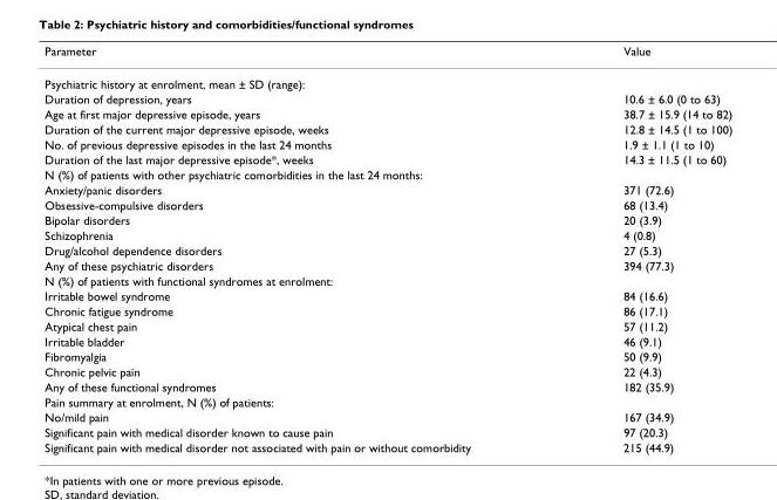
<table><thead><tr><td>Parameter</td><td>Value</td></tr></thead><tbody><tr><td colspan="2">Psychiatric history at enrolment, mean ± SD (range):</td></tr><tr><td>Duration of depression, years</td><td>10.6 ± 6.0 (0 to 63)</td></tr><tr><td>Age at first major depressive episode, years</td><td>38.7 ± 15.9 (14 to 82)</td></tr><tr><td>Duration of the current major depressive episode, weeks</td><td>12.8 ± 14.5 (1 to 100)</td></tr><tr><td>No. of previous depressive episodes in the last 24 months</td><td>1.9 ± 1.1 (1 to 10)</td></tr><tr><td>Duration of the last major depressive episode*, weeks</td><td>14.3 ± 11.5 (1 to 60)</td></tr><tr><td colspan="2">N (%) of patients with other psychiatric comorbidities in the last 24 months:</td></tr><tr><td>Anxiety/panic disorders</td><td>371 (72.6)</td></tr><tr><td>Obsessive-compulsive disorders</td><td>68 (13.4)</td></tr><tr><td>Bipolar disorders</td><td>20 (3.9)</td></tr><tr><td>Schizophrenia</td><td>4 (0.8)</td></tr><tr><td>Drug/alcohol dependence disorders</td><td>27 (5.3)</td></tr><tr><td>Any of these psychiatric disorders</td><td>394 (77.3)</td></tr><tr><td colspan="2">N (%) of patients with functional syndromes at enrolment:</td></tr><tr><td>Irritable bowel syndrome</td><td>84 (16.6)</td></tr><tr><td>Chronic fatigue syndrome</td><td>86 (17.1)</td></tr><tr><td>Atypical chest pain</td><td>57 (11.2)</td></tr><tr><td>Irritable bladder</td><td>46 (9.1)</td></tr><tr><td>Fibromyalgia</td><td>50 (9.9)</td></tr><tr><td>Chronic pelvic pain</td><td>22 (4.3)</td></tr><tr><td>Any of these functional syndromes</td><td>182 (35.9)</td></tr><tr><td colspan="2">Pain summary at enrolment, N (%) of patients:</td></tr><tr><td>No/mild pain</td><td>167 (34.9)</td></tr><tr><td>Significant pain with medical disorder known to cause pain</td><td>97 (20.3)</td></tr><tr><td>Significant pain with medical disorder not associated with pain or without comorbidity</td><td>215 (44.9)</td></tr></tbody></table>